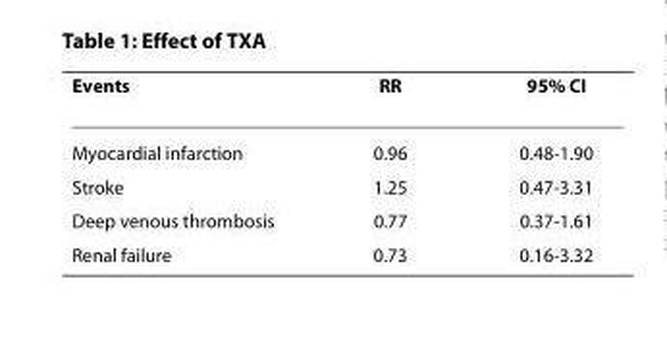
<table><thead><tr><td>Events</td><td>RR</td><td>95% CI</td></tr></thead><tbody><tr><td>Myocardial infarction</td><td>0.96</td><td>0.48-1.90</td></tr><tr><td>Stroke</td><td>1.25</td><td>0.47-3.31</td></tr><tr><td>Deep venous thrombosis</td><td>0.77</td><td>0.37-1.61</td></tr><tr><td>Renal failure</td><td>0.73</td><td>0.16-3.32</td></tr></tbody></table>